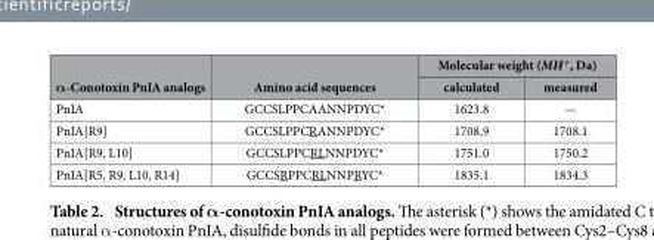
<table><thead><tr><td rowspan="2">α-Conotoxin PnIA analogs</td><td rowspan="2">Amino acid sequences</td><td colspan="2">Molecular weight (МН<sup>+</sup>, Da)</td></tr><tr><td>calculated</td><td>measured</td></tr></thead><tbody><tr><td>PnIA</td><td>GCCSLPPCAANNPDYC*</td><td>1623.8</td><td>—</td></tr><tr><td>PnIA[R9]</td><td>GCCSLPPCRANNPDYC*</td><td>1708.9</td><td>1708.1</td></tr><tr><td>PnIA[R9, L10]</td><td>GCCSLPPCRLNNPDYC*</td><td>1751.0</td><td>1750.2</td></tr><tr><td>PnIA[R5, R9, L10, R14]</td><td>GCCSRPPCRLNNPRYC*</td><td>1835.1</td><td>1834.3</td></tr></tbody></table>